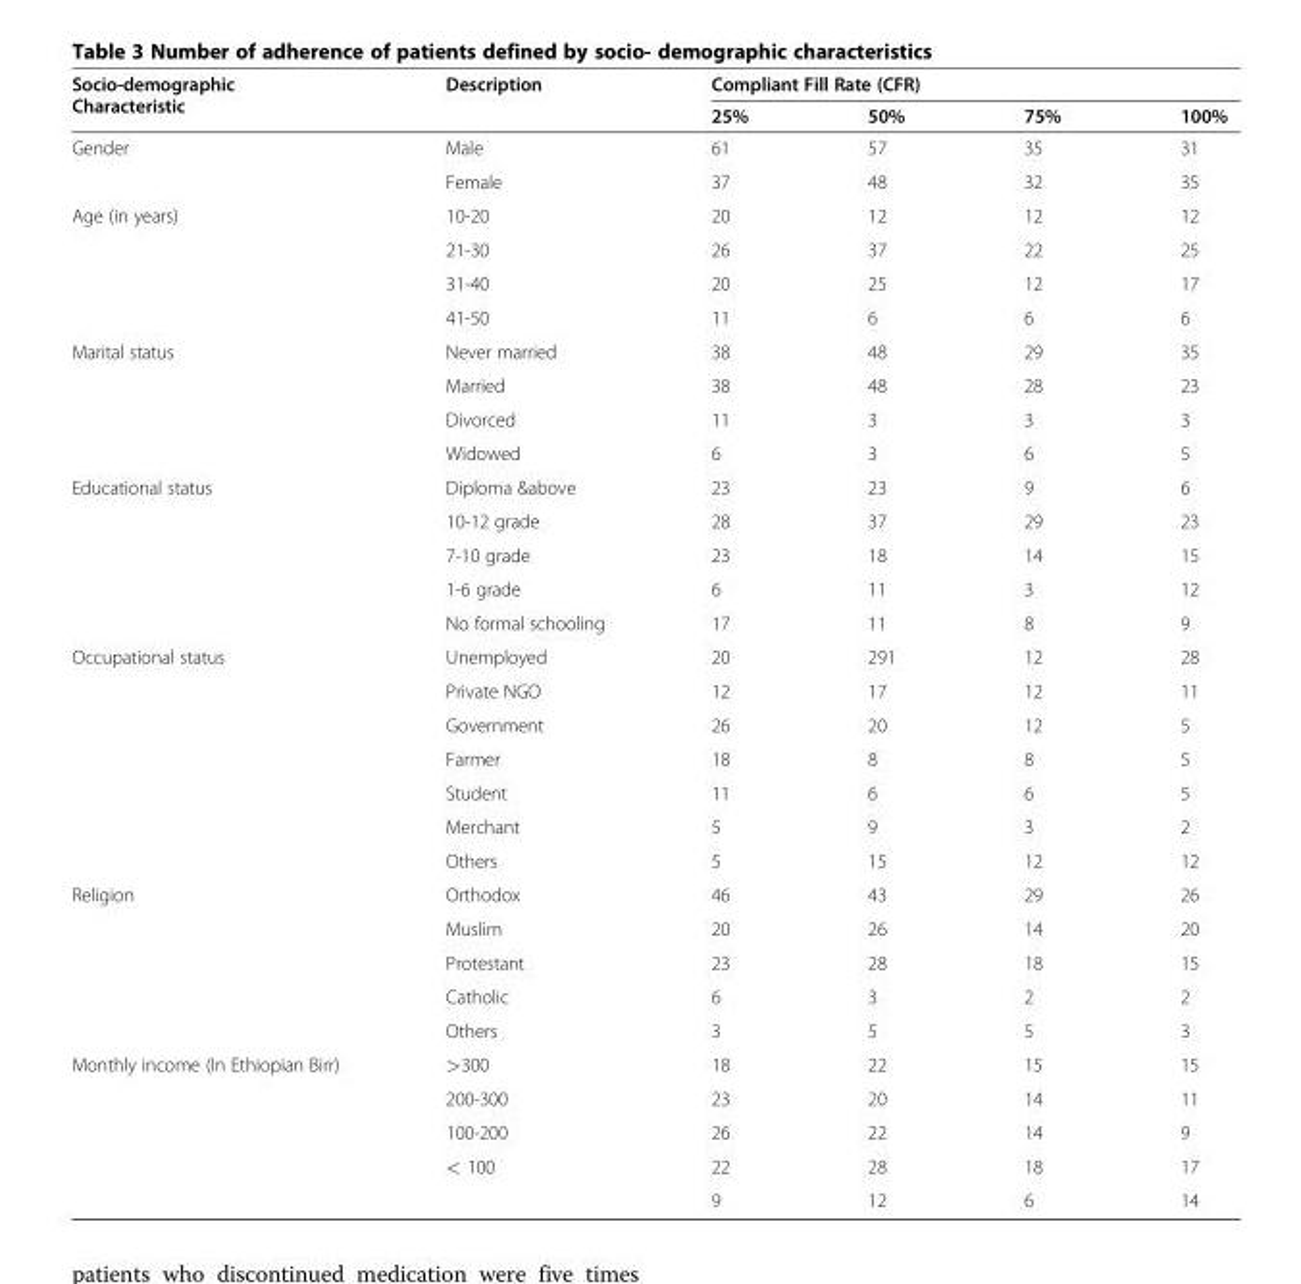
<table><thead><tr><td rowspan="2">Socio-demographic Characteristic</td><td rowspan="2">Description</td><td colspan="4">Compliant Fill Rate (CFR)</td></tr><tr><td>25%</td><td>50%</td><td>75%</td><td>100%</td></tr></thead><tbody><tr><td rowspan="2">Gender</td><td>Male</td><td>61</td><td>57</td><td>35</td><td>31</td></tr><tr><td>Female</td><td>37</td><td>48</td><td>32</td><td>35</td></tr><tr><td rowspan="4">Age (in years)</td><td>10-20</td><td>20</td><td>12</td><td>12</td><td>12</td></tr><tr><td>21-30</td><td>26</td><td>37</td><td>22</td><td>25</td></tr><tr><td>31-40</td><td>20</td><td>25</td><td>12</td><td>17</td></tr><tr><td>41-50</td><td>11</td><td>6</td><td>6</td><td>6</td></tr><tr><td rowspan="4">Marital status</td><td>Never married</td><td>38</td><td>48</td><td>29</td><td>35</td></tr><tr><td>Married</td><td>38</td><td>48</td><td>28</td><td>23</td></tr><tr><td>Divorced</td><td>11</td><td>3</td><td>3</td><td>3</td></tr><tr><td>Widowed</td><td>6</td><td>3</td><td>6</td><td>5</td></tr><tr><td rowspan="5">Educational status</td><td>Diploma &amp;above</td><td>23</td><td>23</td><td>9</td><td>6</td></tr><tr><td>10-12 grade</td><td>28</td><td>37</td><td>29</td><td>23</td></tr><tr><td>7-10 grade</td><td>23</td><td>18</td><td>14</td><td>15</td></tr><tr><td>1-6 grade</td><td>6</td><td>11</td><td>3</td><td>12</td></tr><tr><td>No formal schooling</td><td>17</td><td>11</td><td>8</td><td>9</td></tr><tr><td rowspan="7">Occupational status</td><td>Unemployed</td><td>20</td><td>291</td><td>12</td><td>28</td></tr><tr><td>Private NGO</td><td>12</td><td>17</td><td>12</td><td>11</td></tr><tr><td>Government</td><td>26</td><td>20</td><td>12</td><td>5</td></tr><tr><td>Farmer</td><td>18</td><td>8</td><td>8</td><td>5</td></tr><tr><td>Student</td><td>11</td><td>6</td><td>6</td><td>5</td></tr><tr><td>Merchant</td><td>5</td><td>9</td><td>3</td><td>2</td></tr><tr><td>Others</td><td>5</td><td>15</td><td>12</td><td>12</td></tr><tr><td rowspan="5">Religion</td><td>Orthodox</td><td>46</td><td>43</td><td>29</td><td>26</td></tr><tr><td>Muslim</td><td>20</td><td>26</td><td>14</td><td>20</td></tr><tr><td>Protestant</td><td>23</td><td>28</td><td>18</td><td>15</td></tr><tr><td>Catholic</td><td>6</td><td>3</td><td>2</td><td>2</td></tr><tr><td>Others</td><td>3</td><td>5</td><td>5</td><td>3</td></tr><tr><td rowspan="5">Monthly income (In Ethiopian Birr)</td><td>&gt;300</td><td>18</td><td>22</td><td>15</td><td>15</td></tr><tr><td>200-300</td><td>23</td><td>20</td><td>14</td><td>11</td></tr><tr><td>100-200</td><td>26</td><td>22</td><td>14</td><td>9</td></tr><tr><td>&lt; 100</td><td>22</td><td>28</td><td>18</td><td>17</td></tr><tr><td></td><td>9</td><td>12</td><td>6</td><td>14</td></tr></tbody></table>